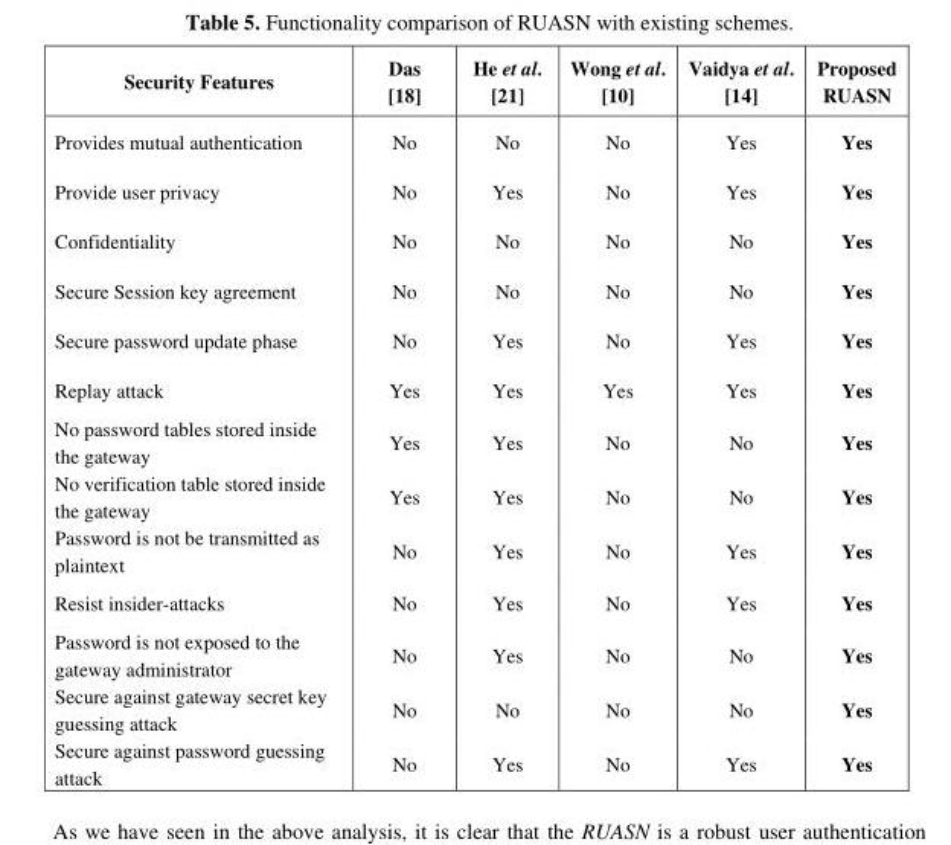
<table><thead><tr><td>Security Features</td><td>Das [18]</td><td>He et al. [21]</td><td>Wong et al. [10]</td><td>Vaidya et al. [14]</td><td>Proposed RUASN</td></tr></thead><tbody><tr><td>Provides mutual authentication</td><td>No</td><td>No</td><td>No</td><td>Yes</td><td>Yes</td></tr><tr><td>Provide user privacy</td><td>No</td><td>Yes</td><td>No</td><td>Yes</td><td>Yes</td></tr><tr><td>Confidentiality</td><td>No</td><td>No</td><td>No</td><td>No</td><td>Yes</td></tr><tr><td>Secure Session key agreement</td><td>No</td><td>No</td><td>No</td><td>No</td><td>Yes</td></tr><tr><td>Secure password update phase</td><td>No</td><td>Yes</td><td>No</td><td>Yes</td><td>Yes</td></tr><tr><td>Replay attack</td><td>Yes</td><td>Yes</td><td>Yes</td><td>Yes</td><td>Yes</td></tr><tr><td>No password tables stored inside the gateway</td><td>Yes</td><td>Yes</td><td>No</td><td>No</td><td>Yes</td></tr><tr><td>No verification table stored inside the gateway</td><td>Yes</td><td>Yes</td><td>No</td><td>No</td><td>Yes</td></tr><tr><td>Password is not be transmitted as plaintext</td><td>No</td><td>Yes</td><td>No</td><td>Yes</td><td>Yes</td></tr><tr><td>Resist insider-attacks</td><td>No</td><td>Yes</td><td>No</td><td>Yes</td><td>Yes</td></tr><tr><td>Password is not exposed to the gateway administrator</td><td>No</td><td>Yes</td><td>No</td><td>No</td><td>Yes</td></tr><tr><td>Secure against gateway secret key guessing attack</td><td>No</td><td>No</td><td>No</td><td>No</td><td>Yes</td></tr><tr><td>Secure against password guessing attack</td><td>No</td><td>Yes</td><td>No</td><td>Yes</td><td>Yes</td></tr></tbody></table>